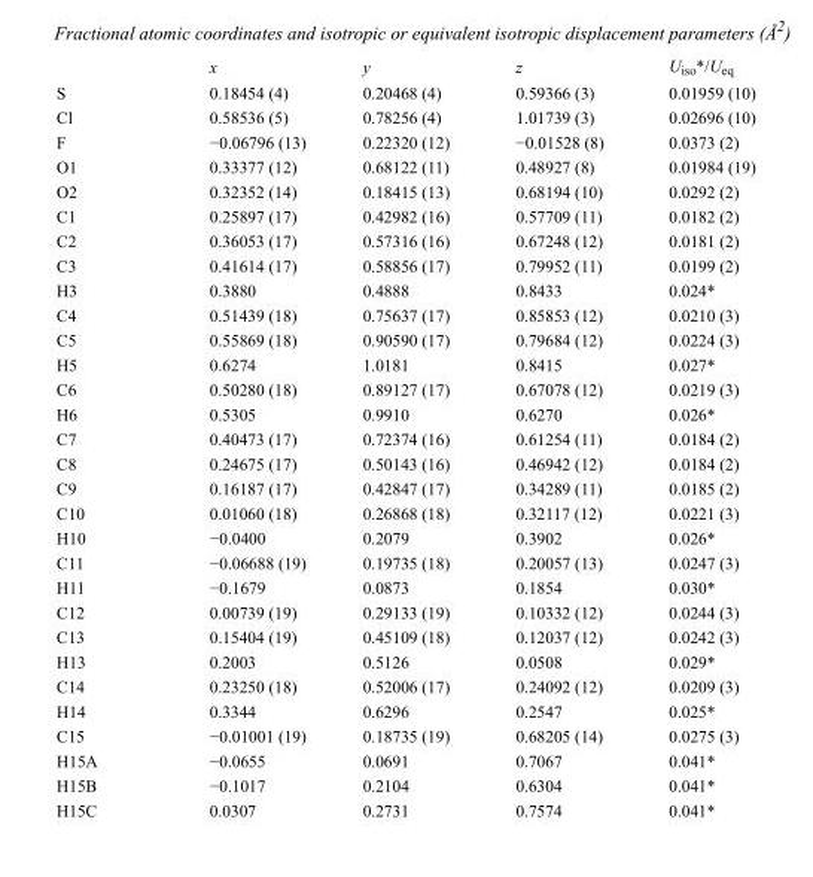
<table><thead><tr><td></td><td>x</td><td>y</td><td>z</td><td>U<sub>iso</sub>*/U<sub>eq</sub></td></tr></thead><tbody><tr><td>S</td><td>0.18454 (4)</td><td>0.20468 (4)</td><td>0.59366 (3)</td><td>0.01959 (10)</td></tr><tr><td>Cl</td><td>0.58536 (5)</td><td>0.78256 (4)</td><td>1.01739 (3)</td><td>0.02696 (10)</td></tr><tr><td>F</td><td>−0.06796 (13)</td><td>0.22320 (12)</td><td>−0.01528 (8)</td><td>0.0373 (2)</td></tr><tr><td>O1</td><td>0.33377 (12)</td><td>0.68122 (11)</td><td>0.48927 (8)</td><td>0.01984 (19)</td></tr><tr><td>O2</td><td>0.32352 (14)</td><td>0.18415 (13)</td><td>0.68194 (10)</td><td>0.0292 (2)</td></tr><tr><td>C1</td><td>0.25897 (17)</td><td>0.42982 (16)</td><td>0.57709 (11)</td><td>0.0182 (2)</td></tr><tr><td>C2</td><td>0.36053 (17)</td><td>0.57316 (16)</td><td>0.67248 (12)</td><td>0.0181 (2)</td></tr><tr><td>C3</td><td>0.41614 (17)</td><td>0.58856 (17)</td><td>0.79952 (11)</td><td>0.0199 (2)</td></tr><tr><td>H3</td><td>0.3880</td><td>0.4888</td><td>0.8433</td><td>0.024*</td></tr><tr><td>C4</td><td>0.51439 (18)</td><td>0.75637 (17)</td><td>0.85853 (12)</td><td>0.0210 (3)</td></tr><tr><td>C5</td><td>0.55869 (18)</td><td>0.90590 (17)</td><td>0.79684 (12)</td><td>0.0224 (3)</td></tr><tr><td>H5</td><td>0.6274</td><td>1.0181</td><td>0.8415</td><td>0.027*</td></tr><tr><td>C6</td><td>0.50280 (18)</td><td>0.89127 (17)</td><td>0.67078 (12)</td><td>0.0219 (3)</td></tr><tr><td>H6</td><td>0.5305</td><td>0.9910</td><td>0.6270</td><td>0.026*</td></tr><tr><td>C7</td><td>0.40473 (17)</td><td>0.72374 (16)</td><td>0.61254 (11)</td><td>0.0184 (2)</td></tr><tr><td>C8</td><td>0.24675 (17)</td><td>0.50143 (16)</td><td>0.46942 (12)</td><td>0.0184 (2)</td></tr><tr><td>C9</td><td>0.16187 (17)</td><td>0.42847 (17)</td><td>0.34289 (11)</td><td>0.0185 (2)</td></tr><tr><td>C10</td><td>0.01060 (18)</td><td>0.26868 (18)</td><td>0.32117 (12)</td><td>0.0221 (3)</td></tr><tr><td>H10</td><td>−0.0400</td><td>0.2079</td><td>0.3902</td><td>0.026*</td></tr><tr><td>C11</td><td>−0.06688 (19)</td><td>0.19735 (18)</td><td>0.20057 (13)</td><td>0.0247 (3)</td></tr><tr><td>H11</td><td>−0.1679</td><td>0.0873</td><td>0.1854</td><td>0.030*</td></tr><tr><td>C12</td><td>0.00739 (19)</td><td>0.29133 (19)</td><td>0.10332 (12)</td><td>0.0244 (3)</td></tr><tr><td>C13</td><td>0.15404 (19)</td><td>0.45109 (18)</td><td>0.12037 (12)</td><td>0.0242 (3)</td></tr><tr><td>H13</td><td>0.2003</td><td>0.5126</td><td>0.0508</td><td>0.029*</td></tr><tr><td>C14</td><td>0.23250 (18)</td><td>0.52006 (17)</td><td>0.24092 (12)</td><td>0.0209 (3)</td></tr><tr><td>H14</td><td>0.3344</td><td>0.6296</td><td>0.2547</td><td>0.025*</td></tr><tr><td>C15</td><td>−0.01001 (19)</td><td>0.18735 (19)</td><td>0.68205 (14)</td><td>0.0275 (3)</td></tr><tr><td>H15A</td><td>−0.0655</td><td>0.0691</td><td>0.7067</td><td>0.041*</td></tr><tr><td>H15B</td><td>−0.1017</td><td>0.2104</td><td>0.6304</td><td>0.041*</td></tr><tr><td>H15C</td><td>0.0307</td><td>0.2731</td><td>0.7574</td><td>0.041*</td></tr></tbody></table>